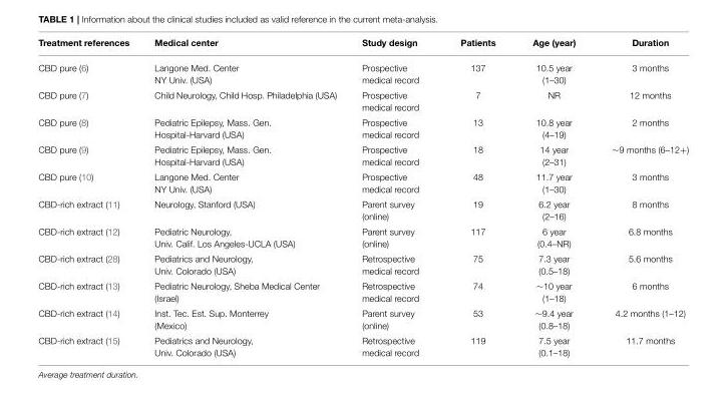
<table><thead><tr><td>Treatment references</td><td>Medical center</td><td>Study design</td><td>Patients</td><td>Age (year)</td><td>Duration</td></tr></thead><tbody><tr><td>CBD pure (6)</td><td>Langone Med. Center NY Univ. (USA)</td><td>Prospective medical record</td><td>137</td><td>10.5 year (1–30)</td><td>3 months</td></tr><tr><td>CBD pure (7)</td><td>Child Neurology, Child Hosp. Philadelphia (USA)</td><td>Prospective medical record</td><td>7</td><td>NR</td><td>12 months</td></tr><tr><td>CBD pure (8)</td><td>Pediatric Epilepsy, Mass. Gen. Hospital-Harvard (USA)</td><td>Prospective medical record</td><td>13</td><td>10.8 year (4–19)</td><td>2 months</td></tr><tr><td>CBD pure (9)</td><td>Pediatric Epilepsy, Mass. Gen. Hospital-Harvard (USA)</td><td>Prospective medical record</td><td>18</td><td>14 year (2–31)</td><td>∼9 months (6–12+)</td></tr><tr><td>CBD pure (10)</td><td>Langone Med. Center NY Univ. (USA)</td><td>Prospective medical record</td><td>48</td><td>11.7 year (1–30)</td><td>3 months</td></tr><tr><td>CBD-rich extract (11)</td><td>Neurology, Stanford (USA)</td><td>Parent survey (online)</td><td>19</td><td>6.2 year (2–16)</td><td>8 months</td></tr><tr><td>CBD-rich extract (12)</td><td>Pediatric Neurology, Univ. Calif. Los Angeles-UCLA (USA)</td><td>Parent survey (online)</td><td>117</td><td>6 year (0.4–NR)</td><td>6.8 months</td></tr><tr><td>CBD-rich extract (28)</td><td>Pediatrics and Neurology, Univ. Colorado (USA)</td><td>Retrospective medical record</td><td>75</td><td>7.3 year (0.5–18)</td><td>5.6 months</td></tr><tr><td>CBD-rich extract (13)</td><td>Pediatric Neurology, Sheba Medical Center (Israel)</td><td>Retrospective medical record</td><td>74</td><td>∼10 year (1–18)</td><td>6 months</td></tr><tr><td>CBD-rich extract (14)</td><td>Inst. Tec. Est. Sup. Monterrey (Mexico)</td><td>Parent survey (online)</td><td>53</td><td>∼9.4 year (0.8–18)</td><td>4.2 months (1–12)</td></tr><tr><td>CBD-rich extract (15)</td><td>Pediatrics and Neurology, Univ. Colorado (USA)</td><td>Retrospective medical record</td><td>119</td><td>7.5 year (0.1–18)</td><td>11.7 months</td></tr></tbody></table>